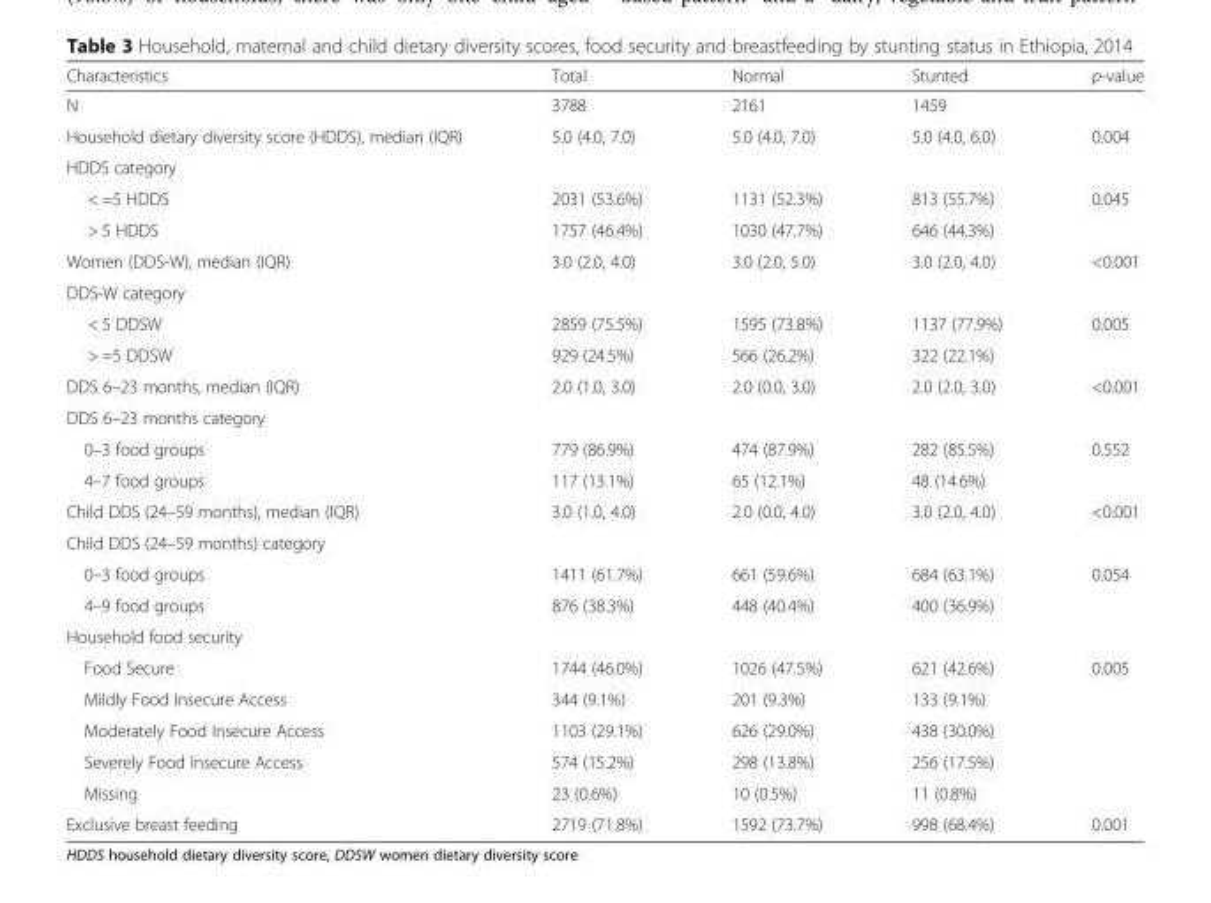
<table><thead><tr><td>Characteristics</td><td>Total</td><td>Normal</td><td>Stunted</td><td>p-value</td></tr></thead><tbody><tr><td>N</td><td>3788</td><td>2161</td><td>1459</td><td></td></tr><tr><td>Household dietary diversity score (HDDS), median (IQR)</td><td>5.0 (4.0, 7.0)</td><td>5.0 (4.0, 7.0)</td><td>5.0 (4.0, 6.0)</td><td>0.004</td></tr><tr><td colspan="5">HDDS category</td></tr><tr><td>&lt; =5 HDDS</td><td>2031 (53.6%)</td><td>1131 (52.3%)</td><td>813 (55.7%)</td><td rowspan="2">0.045</td></tr><tr><td>&gt; 5 HDDS</td><td>1757 (46.4%)</td><td>1030 (47.7%)</td><td>646 (44.3%)</td></tr><tr><td>Women (DDS-W), median (IQR)</td><td>3.0 (2.0, 4.0)</td><td>3.0 (2.0, 5.0)</td><td>3.0 (2.0, 4.0)</td><td>&lt;0.001</td></tr><tr><td colspan="5">DDS-W category</td></tr><tr><td>&lt; 5 DDSW</td><td>2859 (75.5%)</td><td>1595 (73.8%)</td><td>1137 (77.9%)</td><td rowspan="2">0.005</td></tr><tr><td>&gt; =5 DDSW</td><td>929 (24.5%)</td><td>566 (26.2%)</td><td>322 (22.1%)</td></tr><tr><td>DDS 6–23 months, median (IQR)</td><td>2.0 (1.0, 3.0)</td><td>2.0 (0.0, 3.0)</td><td>2.0 (2.0, 3.0)</td><td>&lt;0.001</td></tr><tr><td colspan="5">DDS 6–23 months category</td></tr><tr><td>0–3 food groups</td><td>779 (86.9%)</td><td>474 (87.9%)</td><td>282 (85.5%)</td><td rowspan="2">0.552</td></tr><tr><td>4–7 food groups</td><td>117 (13.1%)</td><td>65 (12.1%)</td><td>48 (14.6%)</td></tr><tr><td>Child DDS (24–59 months), median (IQR)</td><td>3.0 (1.0, 4.0)</td><td>2.0 (0.0, 4.0)</td><td>3.0 (2.0, 4.0)</td><td>&lt;0.001</td></tr><tr><td colspan="5">Child DDS (24–59 months) category</td></tr><tr><td>0–3 food groups</td><td>1411 (61.7%)</td><td>661 (59.6%)</td><td>684 (63.1%)</td><td rowspan="2">0.054</td></tr><tr><td>4–9 food groups</td><td>876 (38.3%)</td><td>448 (40.4%)</td><td>400 (36.9%)</td></tr><tr><td colspan="5">Household food security</td></tr><tr><td>Food Secure</td><td>1744 (46.0%)</td><td>1026 (47.5%)</td><td>621 (42.6%)</td><td rowspan="5">0.005</td></tr><tr><td>Mildly Food Insecure Access</td><td>344 (9.1%)</td><td>201 (9.3%)</td><td>133 (9.1%)</td></tr><tr><td>Moderately Food Insecure Access</td><td>1103 (29.1%)</td><td>626 (29.0%)</td><td>438 (30.0%)</td></tr><tr><td>Severely Food Insecure Access</td><td>574 (15.2%)</td><td>298 (13.8%)</td><td>256 (17.5%)</td></tr><tr><td>Missing</td><td>23 (0.6%)</td><td>10 (0.5%)</td><td>11 (0.8%)</td></tr><tr><td>Exclusive breast feeding</td><td>2719 (71.8%)</td><td>1592 (73.7%)</td><td>998 (68.4%)</td><td>0.001</td></tr></tbody></table>